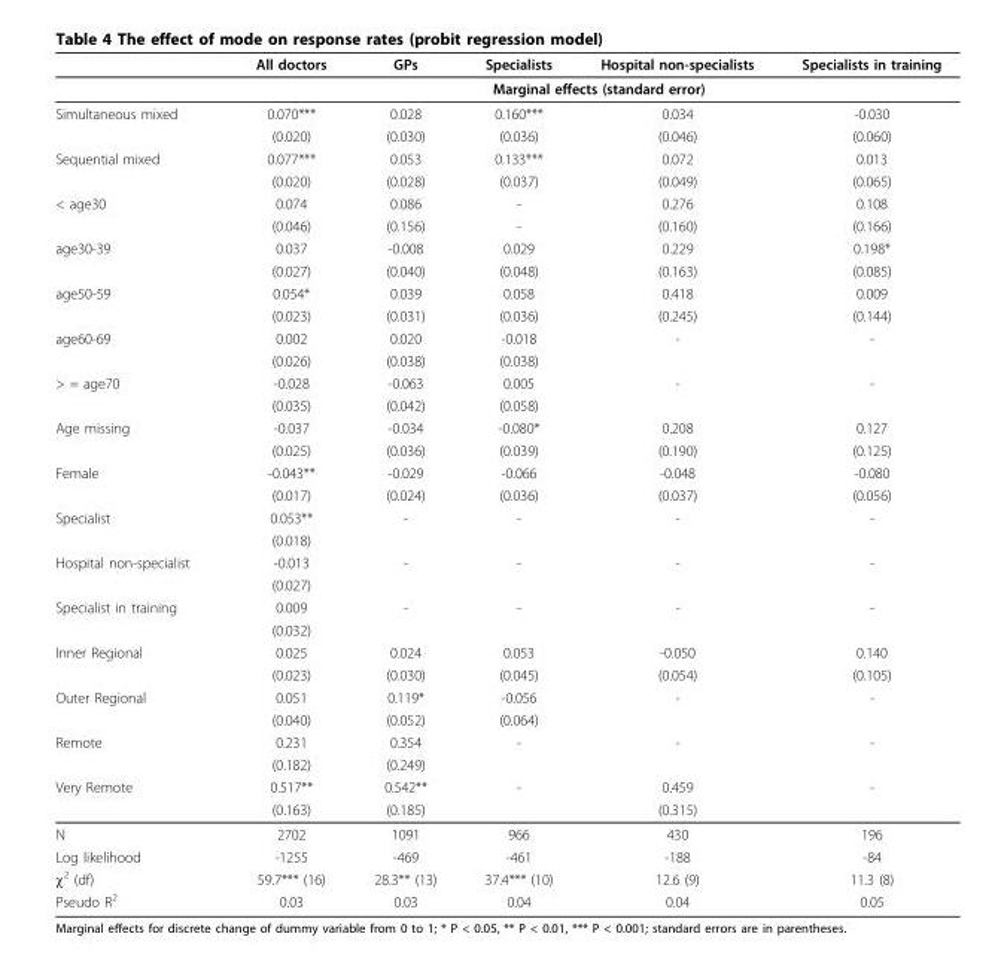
<table><thead><tr><td></td><td>All doctors</td><td>GPs</td><td>Specialists</td><td>Hospital non-specialists</td><td>Specialists in training</td></tr></thead><tbody><tr><td></td><td colspan="5">Marginal effects (standard error)</td></tr><tr><td rowspan="2">Simultaneous mixed</td><td>0.070***</td><td>0.028</td><td>0.160***</td><td>0.034</td><td>-0.030</td></tr><tr><td>(0.020)</td><td>(0.030)</td><td>(0.036)</td><td>(0.046)</td><td>(0.060)</td></tr><tr><td rowspan="2">Sequential mixed</td><td>0.077***</td><td>0.053</td><td>0.133***</td><td>0.072</td><td>0.013</td></tr><tr><td>(0.020)</td><td>(0.028)</td><td>(0.037)</td><td>(0.049)</td><td>(0.065)</td></tr><tr><td rowspan="2">&lt; age30</td><td>0.074</td><td>0.086</td><td>-</td><td>0.276</td><td>0.108</td></tr><tr><td>(0.046)</td><td>(0.156)</td><td>-</td><td>(0.160)</td><td>(0.166)</td></tr><tr><td rowspan="2">age30-39</td><td>0.037</td><td>-0.008</td><td>0.029</td><td>0.229</td><td>0.198*</td></tr><tr><td>(0.027)</td><td>(0.040)</td><td>(0.048)</td><td>(0.163)</td><td>(0.085)</td></tr><tr><td rowspan="2">age50-59</td><td>0.054*</td><td>0.039</td><td>0.058</td><td>0.418</td><td>0.009</td></tr><tr><td>(0.023)</td><td>(0.031)</td><td>(0.036)</td><td>(0.245)</td><td>(0.144)</td></tr><tr><td rowspan="2">age60-69</td><td>0.002</td><td>0.020</td><td>-0.018</td><td>-</td><td>-</td></tr><tr><td>(0.026)</td><td>(0.038)</td><td>(0.038)</td><td></td><td></td></tr><tr><td rowspan="2">&gt; = age70</td><td>-0.028</td><td>-0.063</td><td>0.005</td><td>-</td><td>-</td></tr><tr><td>(0.035)</td><td>(0.042)</td><td>(0.058)</td><td></td><td></td></tr><tr><td rowspan="2">Age missing</td><td>-0.037</td><td>-0.034</td><td>-0.080*</td><td>0.208</td><td>0.127</td></tr><tr><td>(0.025)</td><td>(0.036)</td><td>(0.039)</td><td>(0.190)</td><td>(0.125)</td></tr><tr><td rowspan="2">Female</td><td>-0.043**</td><td>-0.029</td><td>-0.066</td><td>-0.048</td><td>-0.080</td></tr><tr><td>(0.017)</td><td>(0.024)</td><td>(0.036)</td><td>(0.037)</td><td>(0.056)</td></tr><tr><td rowspan="2">Specialist</td><td>0.053**</td><td>-</td><td>-</td><td>-</td><td>-</td></tr><tr><td>(0.018)</td><td></td><td></td><td></td><td></td></tr><tr><td rowspan="2">Hospital non-specialist</td><td>-0.013</td><td>-</td><td>-</td><td>-</td><td>-</td></tr><tr><td>(0.027)</td><td></td><td></td><td></td><td></td></tr><tr><td rowspan="2">Specialist in training</td><td>0.009</td><td>-</td><td>-</td><td>-</td><td>-</td></tr><tr><td>(0.032)</td><td></td><td></td><td></td><td></td></tr><tr><td rowspan="2">Inner Regional</td><td>0.025</td><td>0.024</td><td>0.053</td><td>-0.050</td><td>0.140</td></tr><tr><td>(0.023)</td><td>(0.030)</td><td>(0.045)</td><td>(0.054)</td><td>(0.105)</td></tr><tr><td rowspan="2">Outer Regional</td><td>0.051</td><td>0.119*</td><td>-0.056</td><td>-</td><td>-</td></tr><tr><td>(0.040)</td><td>(0.052)</td><td>(0.064)</td><td></td><td></td></tr><tr><td rowspan="2">Remote</td><td>0.231</td><td>0.354</td><td>-</td><td>-</td><td>-</td></tr><tr><td>(0.182)</td><td>(0.249)</td><td></td><td></td><td></td></tr><tr><td rowspan="2">Very Remote</td><td>0.517**</td><td>0.542**</td><td>-</td><td>0.459</td><td>-</td></tr><tr><td>(0.163)</td><td>(0.185)</td><td></td><td>(0.315)</td><td></td></tr><tr><td>N</td><td>2702</td><td>1091</td><td>966</td><td>430</td><td>196</td></tr><tr><td>Log likelihood</td><td>-1255</td><td>-469</td><td>-461</td><td>-188</td><td>-84</td></tr><tr><td>χ<sup>2</sup> (df)</td><td>59.7*** (16)</td><td>28.3** (13)</td><td>37.4*** (10)</td><td>12.6 (9)</td><td>11.3 (8)</td></tr><tr><td>Pseudo R<sup>2</sup></td><td>0.03</td><td>0.03</td><td>0.04</td><td>0.04</td><td>0.05</td></tr></tbody></table>